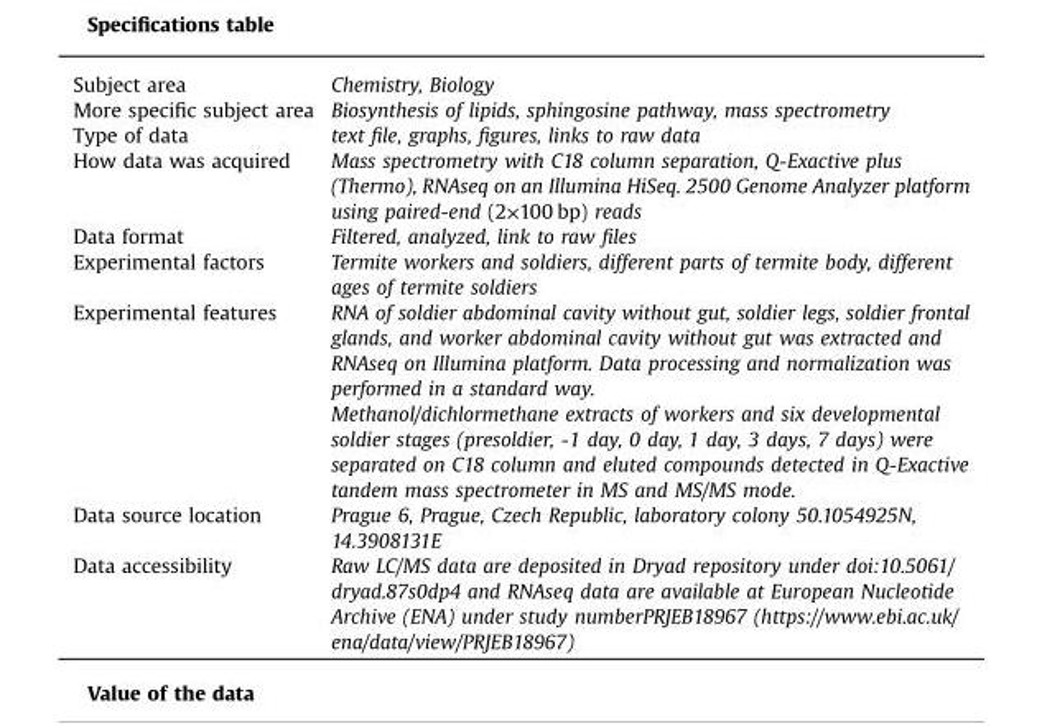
<table><tbody><tr><td>Subject area</td><td>Chemistry, Biology</td></tr><tr><td>More specific subject area</td><td>Biosynthesis of lipids, sphingosine pathway, mass spectrometry</td></tr><tr><td>Type of data</td><td>text file, graphs, figures, links to raw data</td></tr><tr><td>How data was acquired</td><td>Mass spectrometry with C18 column separation, Q-Exactive plus (Thermo), RNAseq on an Illumina HiSeq. 2500 Genome Analyzer platform using paired-end (2×100 bp) reads</td></tr><tr><td>Data format</td><td>Filtered, analyzed, link to raw files</td></tr><tr><td>Experimental factors</td><td>Termite workers and soldiers, different parts of termite body, different ages of termite soldiers</td></tr><tr><td rowspan="2">Experimental features</td><td>RNA of soldier abdominal cavity without gut, soldier legs, soldier frontal glands, and worker abdominal cavity without gut was extracted and RNAseq on Illumina platform. Data processing and normalization was performed in a standard way.</td></tr><tr><td>Methanol/dichlormethane extracts of workers and six developmental soldier stages (presoldier, -1 day, 0 day, 1 day, 3 days, 7 days) were separated on C18 column and eluted compounds detected in Q-Exactive tandem mass spectrometer in MS and MS/MS mode.</td></tr><tr><td>Data source location</td><td>Prague 6, Prague, Czech Republic, laboratory colony 50.1054925N, 14.3908131E</td></tr><tr><td>Data accessibility</td><td>Raw LC/MS data are deposited in Dryad repository under doi:10.5061/ dryad.87s0dp4 and RNAseq data are available at European Nucleotide Archive (ENA) under study numberPRJEB18967 (https://www.ebi.ac.uk/ ena/data/view/PRJEB18967)</td></tr></tbody></table>